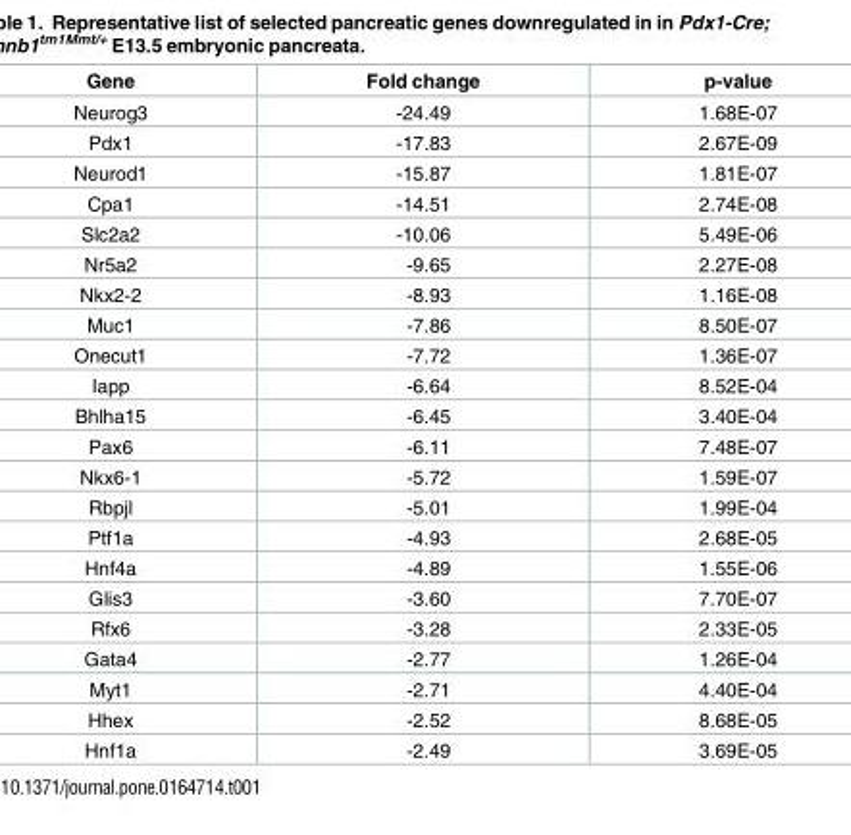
<table><thead><tr><td>Gene</td><td>Fold change</td><td>p-value</td></tr></thead><tbody><tr><td>Neurog3</td><td>-24.49</td><td>1.68E-07</td></tr><tr><td>Pdx1</td><td>-17.83</td><td>2.67E-09</td></tr><tr><td>Neurod1</td><td>-15.87</td><td>1.81E-07</td></tr><tr><td>Cpa1</td><td>-14.51</td><td>2.74E-08</td></tr><tr><td>Slc2a2</td><td>-10.06</td><td>5.49E-06</td></tr><tr><td>Nr5a2</td><td>-9.65</td><td>2.27E-08</td></tr><tr><td>Nkx2-2</td><td>-8.93</td><td>1.16E-08</td></tr><tr><td>Muc1</td><td>-7.86</td><td>8.50E-07</td></tr><tr><td>Onecut1</td><td>-7.72</td><td>1.36E-07</td></tr><tr><td>Iapp</td><td>-6.64</td><td>8.52E-04</td></tr><tr><td>Bhlha15</td><td>-6.45</td><td>3.40E-04</td></tr><tr><td>Pax6</td><td>-6.11</td><td>7.48E-07</td></tr><tr><td>Nkx6-1</td><td>-5.72</td><td>1.59E-07</td></tr><tr><td>Rbpjl</td><td>-5.01</td><td>1.99E-04</td></tr><tr><td>Ptf1a</td><td>-4.93</td><td>2.68E-05</td></tr><tr><td>Hnf4a</td><td>-4.89</td><td>1.55E-06</td></tr><tr><td>Glis3</td><td>-3.60</td><td>7.70E-07</td></tr><tr><td>Rfx6</td><td>-3.28</td><td>2.33E-05</td></tr><tr><td>Gata4</td><td>-2.77</td><td>1.26E-04</td></tr><tr><td>Myt1</td><td>-2.71</td><td>4.40E-04</td></tr><tr><td>Hhex</td><td>-2.52</td><td>8.68E-05</td></tr><tr><td>Hnf1a</td><td>-2.49</td><td>3.69E-05</td></tr></tbody></table>